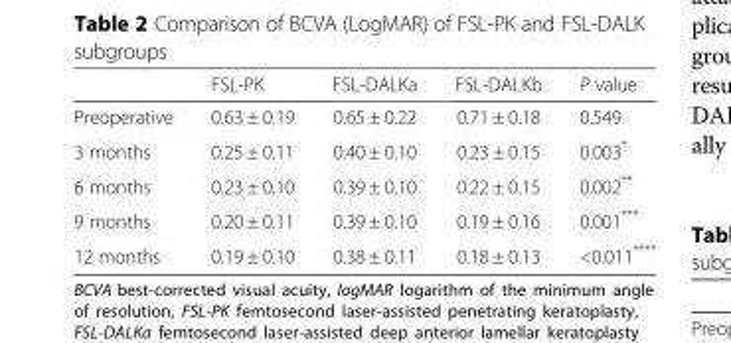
<table><thead><tr><td></td><td>FSL-PK</td><td>FSL-DALKa</td><td>FSL-DALKb</td><td>P value</td></tr></thead><tbody><tr><td>Preoperative</td><td>0.63 ± 0.19</td><td>0.65 ± 0.22</td><td>0.71 ± 0.18</td><td>0.549</td></tr><tr><td>3 months</td><td>0.25 ± 0.11</td><td>0.40 ± 0.10</td><td>0.23 ± 0.15</td><td>0.003*</td></tr><tr><td>6 months</td><td>0.23 ± 0.10</td><td>0.39 ± 0.10</td><td>0.22 ± 0.15</td><td>0.002**</td></tr><tr><td>9 months</td><td>0.20 ± 0.11</td><td>0.39 ± 0.10</td><td>0.19 ± 0.16</td><td>0.001***</td></tr><tr><td>12 months</td><td>0.19 ± 0.10</td><td>0.38 ± 0.11</td><td>0.18 ± 0.13</td><td>&lt;0.011****</td></tr></tbody></table>